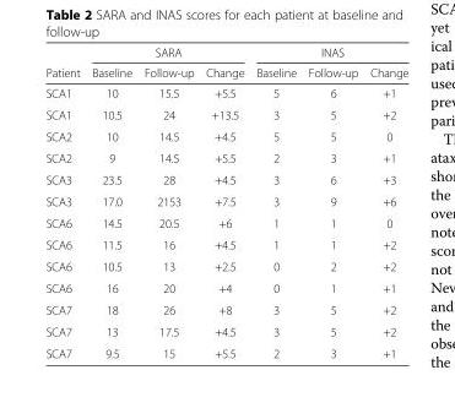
<table><thead><tr><td rowspan="2">Patient</td><td colspan="3">SARA</td><td colspan="3">INAS</td></tr><tr><td>Baseline</td><td>Follow-up</td><td>Change</td><td>Baseline</td><td>Follow-up</td><td>Change</td></tr></thead><tbody><tr><td>SCA1</td><td>10</td><td>15.5</td><td>+5.5</td><td>5</td><td>6</td><td>+1</td></tr><tr><td>SCA1</td><td>10.5</td><td>24</td><td>+13.5</td><td>3</td><td>5</td><td>+2</td></tr><tr><td>SCA2</td><td>10</td><td>14.5</td><td>+4.5</td><td>5</td><td>5</td><td>0</td></tr><tr><td>SCA2</td><td>9</td><td>14.5</td><td>+5.5</td><td>2</td><td>3</td><td>+1</td></tr><tr><td>SCA3</td><td>23.5</td><td>28</td><td>+4.5</td><td>3</td><td>6</td><td>+3</td></tr><tr><td>SCA3</td><td>17.0</td><td>2153</td><td>+7.5</td><td>3</td><td>9</td><td>+6</td></tr><tr><td>SCA6</td><td>14.5</td><td>20.5</td><td>+6</td><td>1</td><td>1</td><td>0</td></tr><tr><td>SCA6</td><td>11.5</td><td>16</td><td>+4.5</td><td>1</td><td>1</td><td>+2</td></tr><tr><td>SCA6</td><td>10.5</td><td>13</td><td>+2.5</td><td>0</td><td>2</td><td>+2</td></tr><tr><td>SCA6</td><td>16</td><td>20</td><td>+4</td><td>0</td><td>1</td><td>+1</td></tr><tr><td>SCA7</td><td>18</td><td>26</td><td>+8</td><td>3</td><td>5</td><td>+2</td></tr><tr><td>SCA7</td><td>13</td><td>17.5</td><td>+4.5</td><td>3</td><td>5</td><td>+2</td></tr><tr><td>SCA7</td><td>9.5</td><td>15</td><td>+5.5</td><td>2</td><td>3</td><td>+1</td></tr></tbody></table>